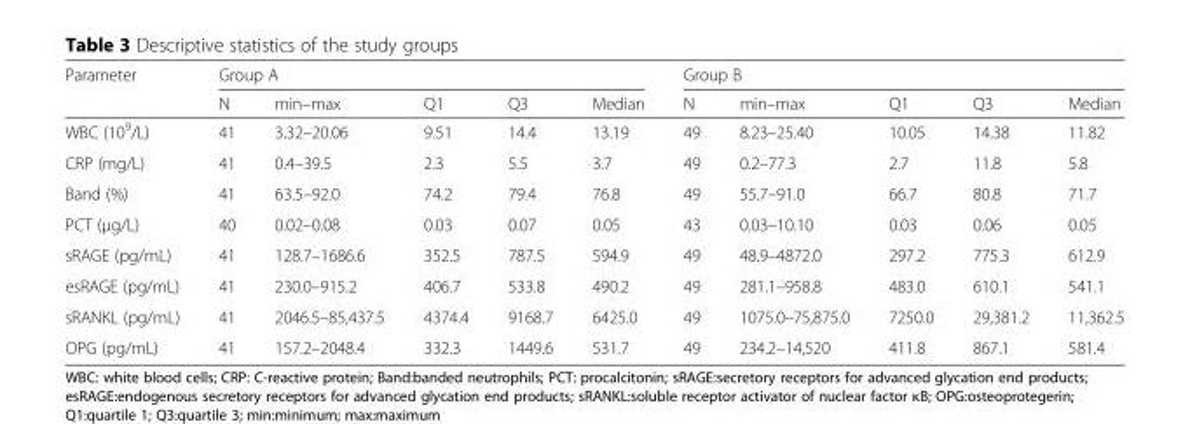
<table><thead><tr><td rowspan="2">Parameter</td><td colspan="5">Group A</td><td colspan="5">Group B</td></tr><tr><td>N</td><td>min–max</td><td>Q1</td><td>Q3</td><td>Median</td><td>N</td><td>min–max</td><td>Q1</td><td>Q3</td><td>Median</td></tr></thead><tbody><tr><td>WBC (10<sup>9</sup>/L)</td><td>41</td><td>3.32–20.06</td><td>9.51</td><td>14.4</td><td>13.19</td><td>49</td><td>8.23–25.40</td><td>10.05</td><td>14.38</td><td>11.82</td></tr><tr><td>CRP (mg/L)</td><td>41</td><td>0.4–39.5</td><td>2.3</td><td>5.5</td><td>3.7</td><td>49</td><td>0.2–77.3</td><td>2.7</td><td>11.8</td><td>5.8</td></tr><tr><td>Band (%)</td><td>41</td><td>63.5–92.0</td><td>74.2</td><td>79.4</td><td>76.8</td><td>49</td><td>55.7–91.0</td><td>66.7</td><td>80.8</td><td>71.7</td></tr><tr><td>PCT (μg/L)</td><td>40</td><td>0.02–0.08</td><td>0.03</td><td>0.07</td><td>0.05</td><td>43</td><td>0.03–10.10</td><td>0.03</td><td>0.06</td><td>0.05</td></tr><tr><td>sRAGE (pg/mL)</td><td>41</td><td>128.7–1686.6</td><td>352.5</td><td>787.5</td><td>594.9</td><td>49</td><td>48.9–4872.0</td><td>297.2</td><td>775.3</td><td>612.9</td></tr><tr><td>esRAGE (pg/mL)</td><td>41</td><td>230.0–915.2</td><td>406.7</td><td>533.8</td><td>490.2</td><td>49</td><td>281.1–958.8</td><td>483.0</td><td>610.1</td><td>541.1</td></tr><tr><td>sRANKL (pg/mL)</td><td>41</td><td>2046.5–85,437.5</td><td>4374.4</td><td>9168.7</td><td>6425.0</td><td>49</td><td>1075.0–75,875.0</td><td>7250.0</td><td>29,381.2</td><td>11,362.5</td></tr><tr><td>OPG (pg/mL)</td><td>41</td><td>157.2–2048.4</td><td>332.3</td><td>1449.6</td><td>531.7</td><td>49</td><td>234.2–14,520</td><td>411.8</td><td>867.1</td><td>581.4</td></tr></tbody></table>